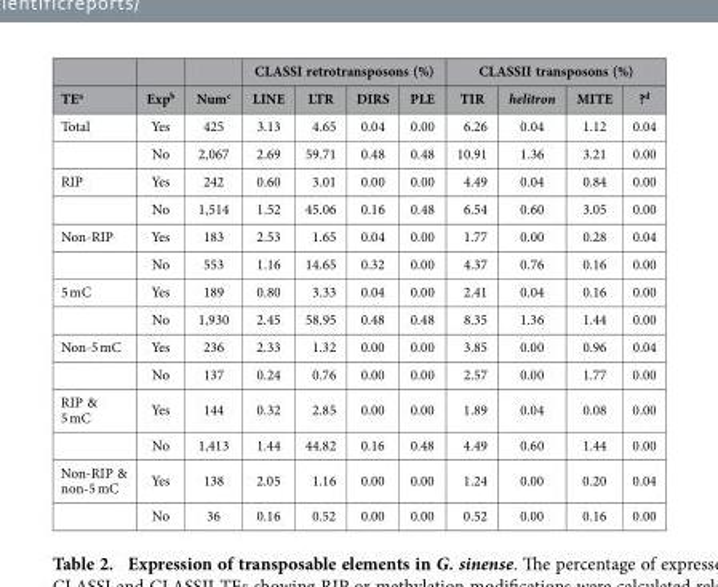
<table><thead><tr><td rowspan="2">TE<sup>a</sup></td><td rowspan="2">Exp<sup>b</sup></td><td rowspan="2">Num<sup>c</sup></td><td colspan="4">CLASSI retrotransposons (%)</td><td colspan="4">CLASSII transposons (%)</td></tr><tr><td>LINE</td><td>LTR</td><td>DIRS</td><td>PLE</td><td>TIR</td><td>helitron</td><td>MITE</td><td>?<sup>d</sup></td></tr></thead><tbody><tr><td rowspan="2">Total</td><td>Yes</td><td>425</td><td>3.13</td><td>4.65</td><td>0.04</td><td>0.00</td><td>6.26</td><td>0.04</td><td>1.12</td><td>0.04</td></tr><tr><td>No</td><td>2,067</td><td>2.69</td><td>59.71</td><td>0.48</td><td>0.48</td><td>10.91</td><td>1.36</td><td>3.21</td><td>0.00</td></tr><tr><td rowspan="2">RIP</td><td>Yes</td><td>242</td><td>0.60</td><td>3.01</td><td>0.00</td><td>0.00</td><td>4.49</td><td>0.04</td><td>0.84</td><td>0.00</td></tr><tr><td>No</td><td>1,514</td><td>1.52</td><td>45.06</td><td>0.16</td><td>0.48</td><td>6.54</td><td>0.60</td><td>3.05</td><td>0.00</td></tr><tr><td rowspan="2">Non-RIP</td><td>Yes</td><td>183</td><td>2.53</td><td>1.65</td><td>0.04</td><td>0.00</td><td>1.77</td><td>0.00</td><td>0.28</td><td>0.04</td></tr><tr><td>No</td><td>553</td><td>1.16</td><td>14.65</td><td>0.32</td><td>0.00</td><td>4.37</td><td>0.76</td><td>0.16</td><td>0.00</td></tr><tr><td rowspan="2">5 mC</td><td>Yes</td><td>189</td><td>0.80</td><td>3.33</td><td>0.04</td><td>0.00</td><td>2.41</td><td>0.04</td><td>0.16</td><td>0.00</td></tr><tr><td>No</td><td>1,930</td><td>2.45</td><td>58.95</td><td>0.48</td><td>0.48</td><td>8.35</td><td>1.36</td><td>1.44</td><td>0.00</td></tr><tr><td rowspan="2">Non-5 mC</td><td>Yes</td><td>236</td><td>2.33</td><td>1.32</td><td>0.00</td><td>0.00</td><td>3.85</td><td>0.00</td><td>0.96</td><td>0.04</td></tr><tr><td>No</td><td>137</td><td>0.24</td><td>0.76</td><td>0.00</td><td>0.00</td><td>2.57</td><td>0.00</td><td>1.77</td><td>0.00</td></tr><tr><td rowspan="2">RIP &amp; 5 mC</td><td>Yes</td><td>144</td><td>0.32</td><td>2.85</td><td>0.00</td><td>0.00</td><td>1.89</td><td>0.04</td><td>0.08</td><td>0.00</td></tr><tr><td>No</td><td>1,413</td><td>1.44</td><td>44.82</td><td>0.16</td><td>0.48</td><td>4.49</td><td>0.60</td><td>1.44</td><td>0.00</td></tr><tr><td rowspan="2">Non-RIP &amp; non-5 mC</td><td>Yes</td><td>138</td><td>2.05</td><td>1.16</td><td>0.00</td><td>0.00</td><td>1.24</td><td>0.00</td><td>0.20</td><td>0.04</td></tr><tr><td>No</td><td>36</td><td>0.16</td><td>0.52</td><td>0.00</td><td>0.00</td><td>0.52</td><td>0.00</td><td>0.16</td><td>0.00</td></tr></tbody></table>